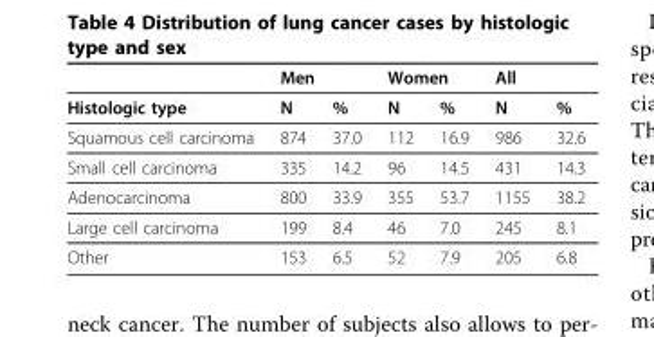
<table><thead><tr><td rowspan="2">Histologic type</td><td colspan="2">Men</td><td colspan="2">Women</td><td colspan="2">All</td></tr><tr><td>N</td><td>%</td><td>N</td><td>%</td><td>N</td><td>%</td></tr></thead><tbody><tr><td>Squamous cell carcinoma</td><td>874</td><td>37.0</td><td>112</td><td>16.9</td><td>986</td><td>32.6</td></tr><tr><td>Small cell carcinoma</td><td>335</td><td>14.2</td><td>96</td><td>14.5</td><td>431</td><td>14.3</td></tr><tr><td>Adenocarcinoma</td><td>800</td><td>33.9</td><td>355</td><td>53.7</td><td>1155</td><td>38.2</td></tr><tr><td>Large cell carcinoma</td><td>199</td><td>8.4</td><td>46</td><td>7.0</td><td>245</td><td>8.1</td></tr><tr><td>Other</td><td>153</td><td>6.5</td><td>52</td><td>7.9</td><td>205</td><td>6.8</td></tr></tbody></table>